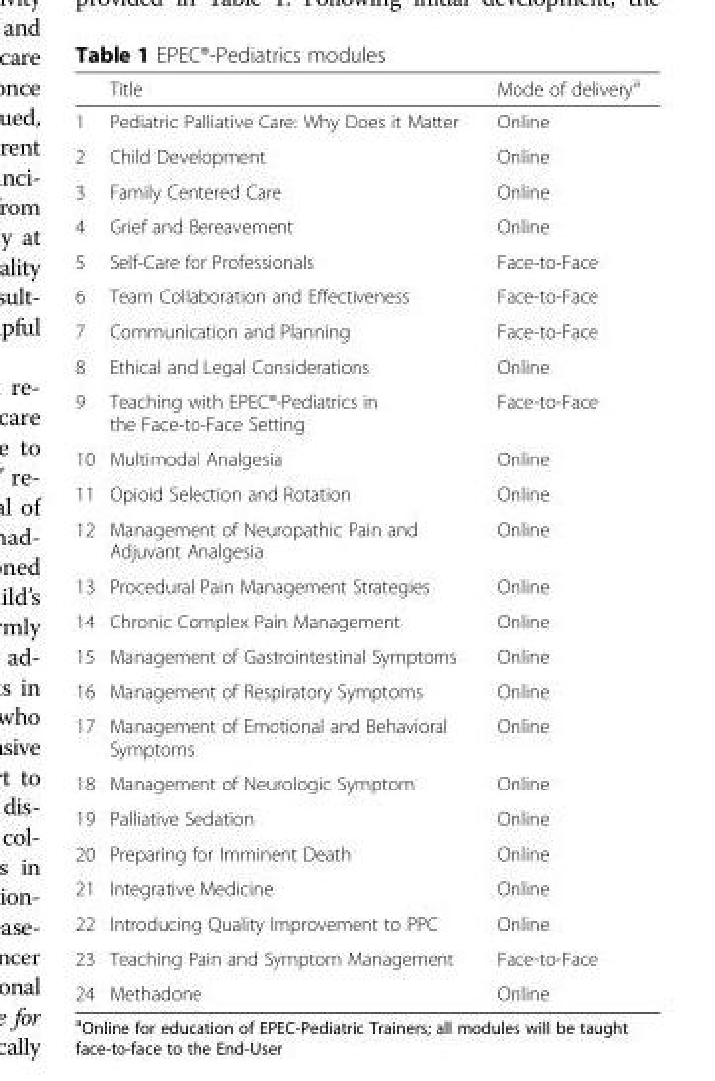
<table><thead><tr><td></td><td>Title</td><td>Mode of delivery<sup>a</sup></td></tr></thead><tbody><tr><td>1</td><td>Pediatric Palliative Care: Why Does it Matter</td><td>Online</td></tr><tr><td>2</td><td>Child Development</td><td>Online</td></tr><tr><td>3</td><td>Family Centered Care</td><td>Online</td></tr><tr><td>4</td><td>Grief and Bereavement</td><td>Online</td></tr><tr><td>5</td><td>Self-Care for Professionals</td><td>Face-to-Face</td></tr><tr><td>6</td><td>Team Collaboration and Effectiveness</td><td>Face-to-Face</td></tr><tr><td>7</td><td>Communication and Planning</td><td>Face-to-Face</td></tr><tr><td>8</td><td>Ethical and Legal Considerations</td><td>Online</td></tr><tr><td>9</td><td>Teaching with EPEC®-Pediatrics in the Face-to-Face Setting</td><td>Face-to-Face</td></tr><tr><td>10</td><td>Multimodal Analgesia</td><td>Online</td></tr><tr><td>11</td><td>Opioid Selection and Rotation</td><td>Online</td></tr><tr><td>12</td><td>Management of Neuropathic Pain and Adjuvant Analgesia</td><td>Online</td></tr><tr><td>13</td><td>Procedural Pain Management Strategies</td><td>Online</td></tr><tr><td>14</td><td>Chronic Complex Pain Management</td><td>Online</td></tr><tr><td>15</td><td>Management of Gastrointestinal Symptoms</td><td>Online</td></tr><tr><td>16</td><td>Management of Respiratory Symptoms</td><td>Online</td></tr><tr><td>17</td><td>Management of Emotional and Behavioral Symptoms</td><td>Online</td></tr><tr><td>18</td><td>Management of Neurologic Symptom</td><td>Online</td></tr><tr><td>19</td><td>Palliative Sedation</td><td>Online</td></tr><tr><td>20</td><td>Preparing for Imminent Death</td><td>Online</td></tr><tr><td>21</td><td>Integrative Medicine</td><td>Online</td></tr><tr><td>22</td><td>Introducing Quality Improvement to PPC</td><td>Online</td></tr><tr><td>23</td><td>Teaching Pain and Symptom Management</td><td>Face-to-Face</td></tr><tr><td>24</td><td>Methadone</td><td>Online</td></tr></tbody></table>